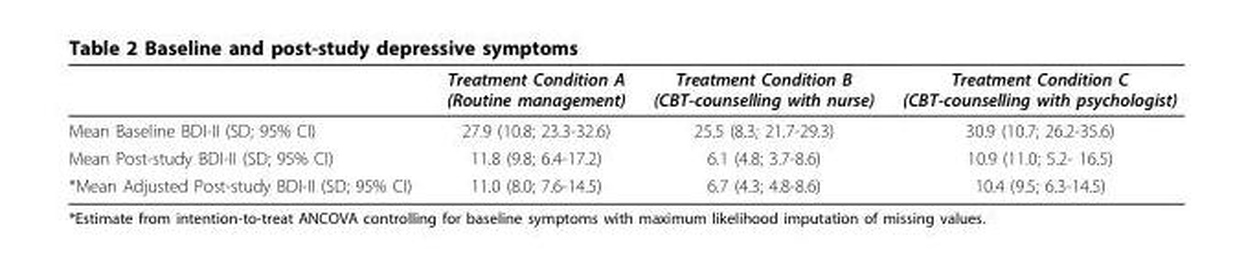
<table><thead><tr><td></td><td>Treatment Condition A (Routine management)</td><td>Treatment Condition B (CBT-counselling with nurse)</td><td>Treatment Condition C (CBT-counselling with psychologist)</td></tr></thead><tbody><tr><td>Mean Baseline BDI-II (SD; 95% CI)</td><td>27.9 (10.8; 23.3-32.6)</td><td>25.5 (8.3; 21.7-29.3)</td><td>30.9 (10.7; 26.2-35.6)</td></tr><tr><td>Mean Post-study BDI-II (SD; 95% CI)</td><td>11.8 (9.8; 6.4-17.2)</td><td>6.1 (4.8; 3.7-8.6)</td><td>10.9 (11.0; 5.2- 16.5)</td></tr><tr><td>*Mean Adjusted Post-study BDI-II (SD; 95% CI)</td><td>11.0 (8.0; 7.6-14.5)</td><td>6.7 (4.3; 4.8-8.6)</td><td>10.4 (9.5; 6.3-14.5)</td></tr></tbody></table>